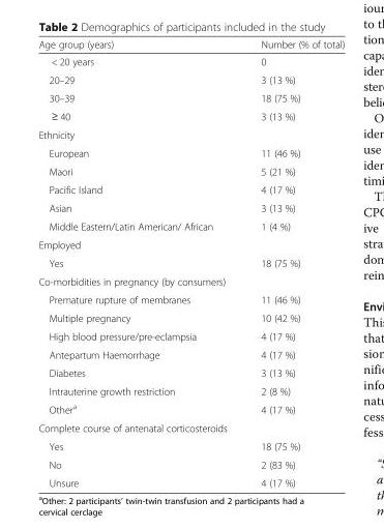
<table><thead><tr><td>Age group (years)</td><td>Number (% of total)</td></tr></thead><tbody><tr><td>&lt; 20 years</td><td>0</td></tr><tr><td>20–29</td><td>3 (13 %)</td></tr><tr><td>30–39</td><td>18 (75 %)</td></tr><tr><td>≥ 40</td><td>3 (13 %)</td></tr><tr><td colspan="2">Ethnicity</td></tr><tr><td>European</td><td>11 (46 %)</td></tr><tr><td>Maori</td><td>5 (21 %)</td></tr><tr><td>Pacific Island</td><td>4 (17 %)</td></tr><tr><td>Asian</td><td>3 (13 %)</td></tr><tr><td>Middle Eastern/Latin American/ African</td><td>1 (4 %)</td></tr><tr><td colspan="2">Employed</td></tr><tr><td>Yes</td><td>18 (75 %)</td></tr><tr><td colspan="2">Co-morbidities in pregnancy (by consumers)</td></tr><tr><td>Premature rupture of membranes</td><td>11 (46 %)</td></tr><tr><td>Multiple pregnancy</td><td>10 (42 %)</td></tr><tr><td>High blood pressure/pre-eclampsia</td><td>4 (17 %)</td></tr><tr><td>Antepartum Haemorrhage</td><td>4 (17 %)</td></tr><tr><td>Diabetes</td><td>3 (13 %)</td></tr><tr><td>Intrauterine growth restriction</td><td>2 (8 %)</td></tr><tr><td>Other<sup>a</sup></td><td>4 (17 %)</td></tr><tr><td colspan="2">Complete course of antenatal corticosteroids</td></tr><tr><td>Yes</td><td>18 (75 %)</td></tr><tr><td>No</td><td>2 (83 %)</td></tr><tr><td>Unsure</td><td>4 (17 %)</td></tr></tbody></table>